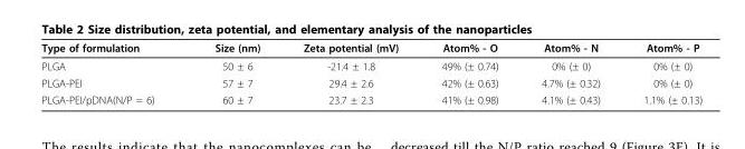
<table><thead><tr><td>Type of formulation</td><td>Size (nm)</td><td>Zeta potential (mV)</td><td>Atom% - O</td><td>Atom% - N</td><td>Atom% - P</td></tr></thead><tbody><tr><td>PLGA</td><td>50 ± 6</td><td>-21.4 ± 1.8</td><td>49% (± 0.74)</td><td>0% (± 0)</td><td>0% (± 0)</td></tr><tr><td>PLGA-PEI</td><td>57 ± 7</td><td>29.4 ± 2.6</td><td>42% (± 0.63)</td><td>4.7% (± 0.32)</td><td>0% (± 0)</td></tr><tr><td>PLGA-PEI/pDNA(N/P = 6)</td><td>60 ± 7</td><td>23.7 ± 2.3</td><td>41% (± 0.98)</td><td>4.1% (± 0.43)</td><td>1.1% (± 0.13)</td></tr></tbody></table>